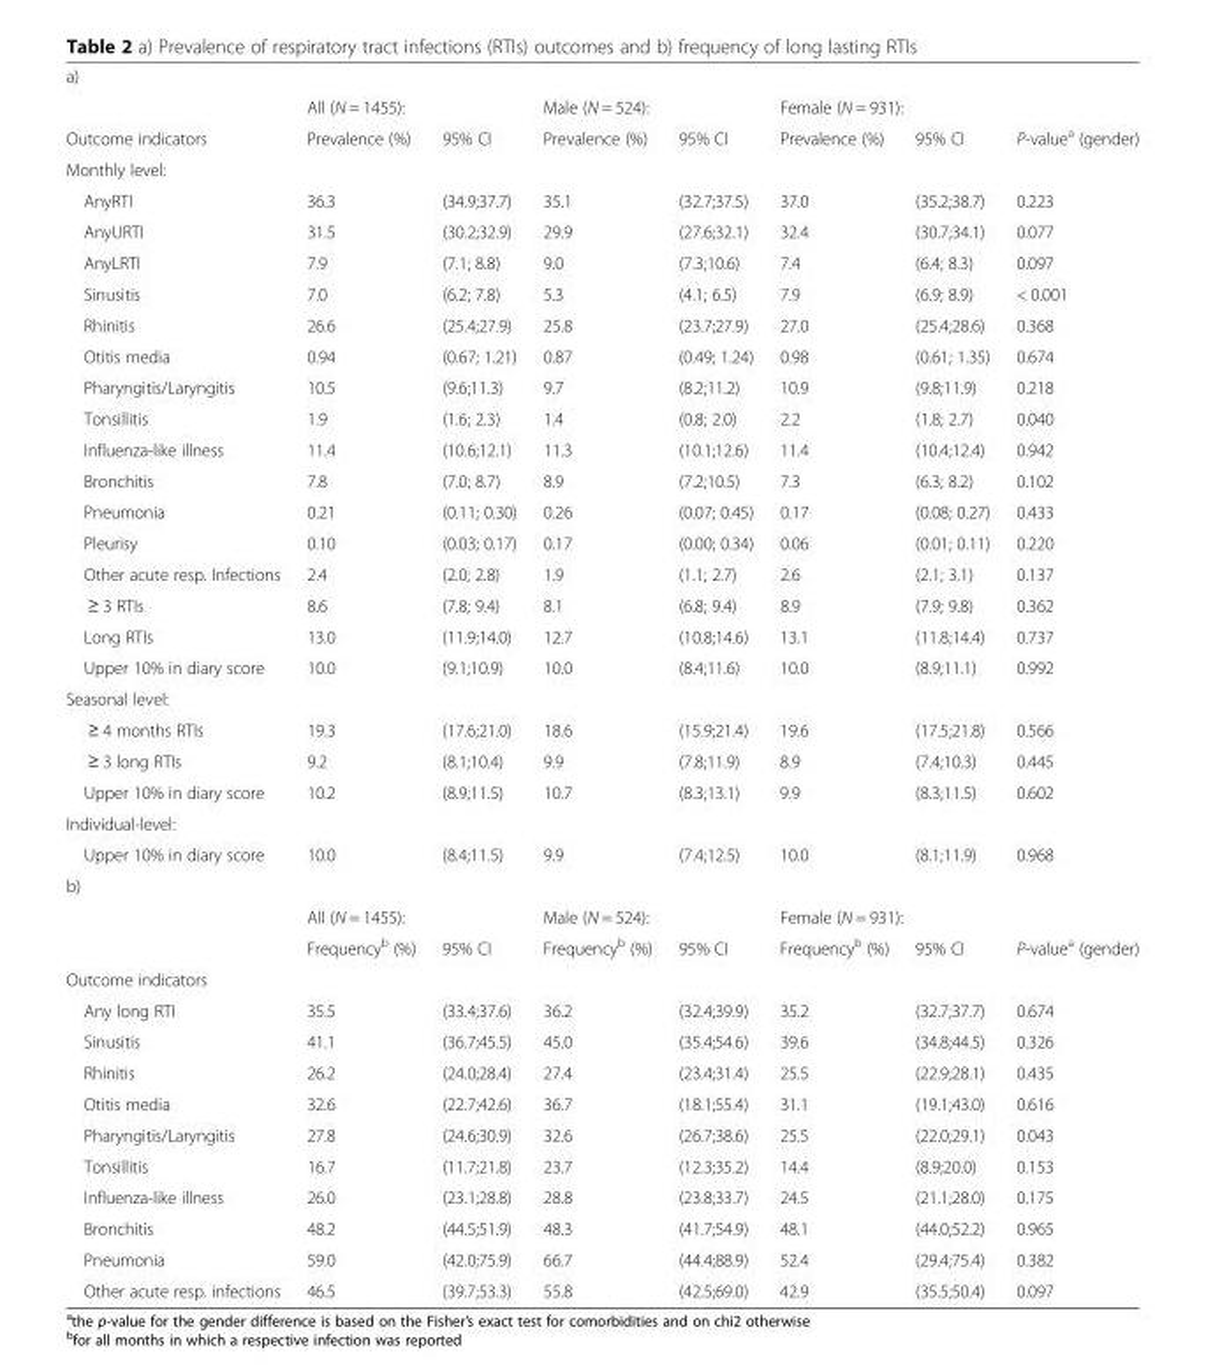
<table><tbody><tr><td colspan="8">a)</td></tr><tr><td></td><td colspan="2">All (N = 1455):</td><td colspan="2">Male (N = 524):</td><td colspan="2">Female (N = 931):</td><td></td></tr><tr><td>Outcome indicators</td><td>Prevalence (%)</td><td>95% CI</td><td>Prevalence (%)</td><td>95% CI</td><td>Prevalence (%)</td><td>95% CI</td><td>P-value<sup>a</sup> (gender)</td></tr><tr><td colspan="8">Monthly level:</td></tr><tr><td>AnyRTI</td><td>36.3</td><td>(34.9;37.7)</td><td>35.1</td><td>(32.7;37.5)</td><td>37.0</td><td>(35.2;38.7)</td><td>0.223</td></tr><tr><td>AnyURTI</td><td>31.5</td><td>(30.2;32.9)</td><td>29.9</td><td>(27.6;32.1)</td><td>32.4</td><td>(30.7;34.1)</td><td>0.077</td></tr><tr><td>AnyLRTI</td><td>7.9</td><td>(7.1; 8.8)</td><td>9.0</td><td>(7.3;10.6)</td><td>7.4</td><td>(6.4; 8.3)</td><td>0.097</td></tr><tr><td>Sinusitis</td><td>7.0</td><td>(6.2; 7.8)</td><td>5.3</td><td>(4.1; 6.5)</td><td>7.9</td><td>(6.9; 8.9)</td><td>&lt; 0.001</td></tr><tr><td>Rhinitis</td><td>26.6</td><td>(25.4;27.9)</td><td>25.8</td><td>(23.7;27.9)</td><td>27.0</td><td>(25.4;28.6)</td><td>0.368</td></tr><tr><td>Otitis media</td><td>0.94</td><td>(0.67; 1.21)</td><td>0.87</td><td>(0.49; 1.24)</td><td>0.98</td><td>(0.61; 1.35)</td><td>0.674</td></tr><tr><td>Pharyngitis/Laryngitis</td><td>10.5</td><td>(9.6;11.3)</td><td>9.7</td><td>(8.2;11.2)</td><td>10.9</td><td>(9.8;11.9)</td><td>0.218</td></tr><tr><td>Tonsillitis</td><td>1.9</td><td>(1.6; 2.3)</td><td>1.4</td><td>(0.8; 2.0)</td><td>2.2</td><td>(1.8; 2.7)</td><td>0.040</td></tr><tr><td>Influenza-like illness</td><td>11.4</td><td>(10.6;12.1)</td><td>11.3</td><td>(10.1;12.6)</td><td>11.4</td><td>(10.4;12.4)</td><td>0.942</td></tr><tr><td>Bronchitis</td><td>7.8</td><td>(7.0; 8.7)</td><td>8.9</td><td>(7.2;10.5)</td><td>7.3</td><td>(6.3; 8.2)</td><td>0.102</td></tr><tr><td>Pneumonia</td><td>0.21</td><td>(0.11; 0.30)</td><td>0.26</td><td>(0.07; 0.45)</td><td>0.17</td><td>(0.08; 0.27)</td><td>0.433</td></tr><tr><td>Pleurisy</td><td>0.10</td><td>(0.03; 0.17)</td><td>0.17</td><td>(0.00; 0.34)</td><td>0.06</td><td>(0.01; 0.11)</td><td>0.220</td></tr><tr><td>Other acute resp. Infections</td><td>2.4</td><td>(2.0; 2.8)</td><td>1.9</td><td>(1.1; 2.7)</td><td>2.6</td><td>(2.1; 3.1)</td><td>0.137</td></tr><tr><td>≥ 3 RTIs</td><td>8.6</td><td>(7.8; 9.4)</td><td>8.1</td><td>(6.8; 9.4)</td><td>8.9</td><td>(7.9; 9.8)</td><td>0.362</td></tr><tr><td>Long RTIs</td><td>13.0</td><td>(11.9;14.0)</td><td>12.7</td><td>(10.8;14.6)</td><td>13.1</td><td>(11.8;14.4)</td><td>0.737</td></tr><tr><td>Upper 10% in diary score</td><td>10.0</td><td>(9.1;10.9)</td><td>10.0</td><td>(8.4;11.6)</td><td>10.0</td><td>(8.9;11.1)</td><td>0.992</td></tr><tr><td colspan="8">Seasonal level:</td></tr><tr><td>≥ 4 months RTIs</td><td>19.3</td><td>(17.6;21.0)</td><td>18.6</td><td>(15.9;21.4)</td><td>19.6</td><td>(17.5;21.8)</td><td>0.566</td></tr><tr><td>≥ 3 long RTIs</td><td>9.2</td><td>(8.1;10.4)</td><td>9.9</td><td>(7.8;11.9)</td><td>8.9</td><td>(7.4;10.3)</td><td>0.445</td></tr><tr><td>Upper 10% in diary score</td><td>10.2</td><td>(8.9;11.5)</td><td>10.7</td><td>(8.3;13.1)</td><td>9.9</td><td>(8.3;11.5)</td><td>0.602</td></tr><tr><td colspan="8">Individual-level:</td></tr><tr><td>Upper 10% in diary score</td><td>10.0</td><td>(8.4;11.5)</td><td>9.9</td><td>(7.4;12.5)</td><td>10.0</td><td>(8.1;11.9)</td><td>0.968</td></tr><tr><td colspan="8">b)</td></tr><tr><td></td><td colspan="2">All (N = 1455):</td><td colspan="2">Male (N = 524):</td><td colspan="2">Female (N = 931):</td><td></td></tr><tr><td></td><td>Frequency<sup>b</sup> (%)</td><td>95% CI</td><td>Frequency<sup>b</sup> (%)</td><td>95% CI</td><td>Frequency<sup>b</sup> (%)</td><td>95% CI</td><td>P-value<sup>a</sup> (gender)</td></tr><tr><td colspan="8">Outcome indicators</td></tr><tr><td>Any long RTI</td><td>35.5</td><td>(33.4;37.6)</td><td>36.2</td><td>(32.4;39.9)</td><td>35.2</td><td>(32.7;37.7)</td><td>0.674</td></tr><tr><td>Sinusitis</td><td>41.1</td><td>(36.7;45.5)</td><td>45.0</td><td>(35.4;54.6)</td><td>39.6</td><td>(34.8;44.5)</td><td>0.326</td></tr><tr><td>Rhinitis</td><td>26.2</td><td>(24.0;28.4)</td><td>27.4</td><td>(23.4;31.4)</td><td>25.5</td><td>(22.9;28.1)</td><td>0.435</td></tr><tr><td>Otitis media</td><td>32.6</td><td>(22.7;42.6)</td><td>36.7</td><td>(18.1;55.4)</td><td>31.1</td><td>(19.1;43.0)</td><td>0.616</td></tr><tr><td>Pharyngitis/Laryngitis</td><td>27.8</td><td>(24.6;30.9)</td><td>32.6</td><td>(26.7;38.6)</td><td>25.5</td><td>(22.0;29.1)</td><td>0.043</td></tr><tr><td>Tonsillitis</td><td>16.7</td><td>(11.7;21.8)</td><td>23.7</td><td>(12.3;35.2)</td><td>14.4</td><td>(8.9;20.0)</td><td>0.153</td></tr><tr><td>Influenza-like illness</td><td>26.0</td><td>(23.1;28.8)</td><td>28.8</td><td>(23.8;33.7)</td><td>24.5</td><td>(21.1;28.0)</td><td>0.175</td></tr><tr><td>Bronchitis</td><td>48.2</td><td>(44.5;51.9)</td><td>48.3</td><td>(41.7;54.9)</td><td>48.1</td><td>(44.0;52.2)</td><td>0.965</td></tr><tr><td>Pneumonia</td><td>59.0</td><td>(42.0;75.9)</td><td>66.7</td><td>(44.4;88.9)</td><td>52.4</td><td>(29.4;75.4)</td><td>0.382</td></tr><tr><td>Other acute resp. infections</td><td>46.5</td><td>(39.7;53.3)</td><td>55.8</td><td>(42.5;69.0)</td><td>42.9</td><td>(35.5;50.4)</td><td>0.097</td></tr></tbody></table>